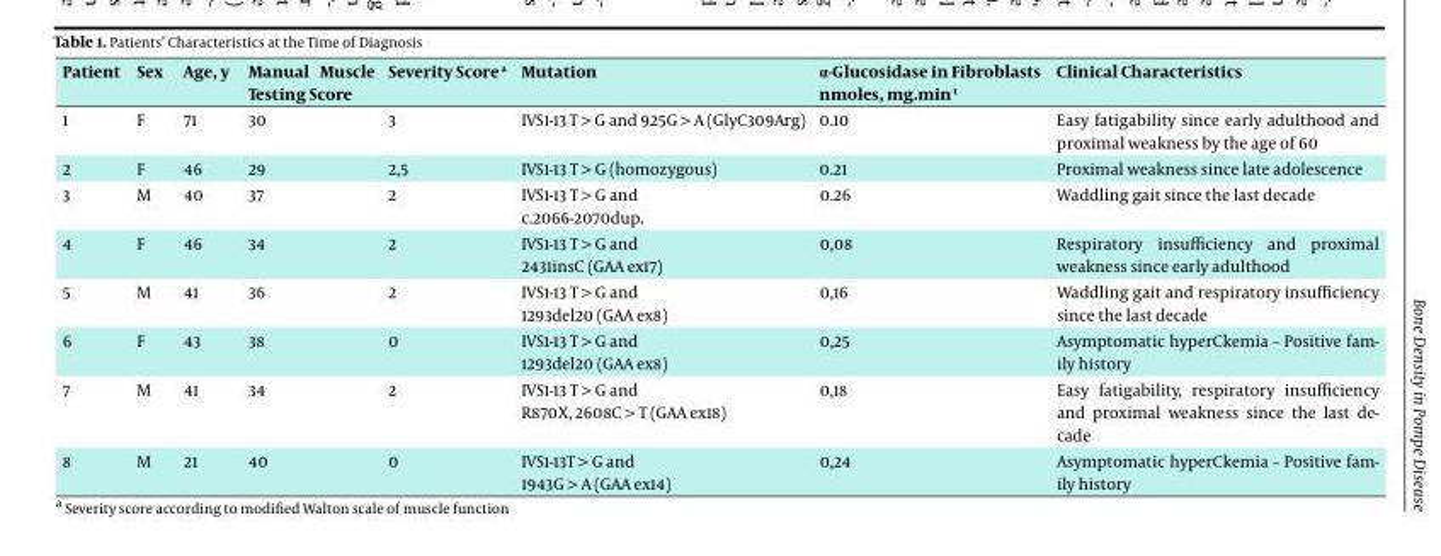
<table><thead><tr><td>Patient</td><td>Sex</td><td>Age, y</td><td>Manual Muscle Testing Score</td><td>Severity Score a</td><td>Mutation</td><td>α-Glucosidase in Fibroblasts nmoles, mg.min<sup>-1</sup></td><td>Clinical Characteristics</td></tr></thead><tbody><tr><td>1</td><td>F</td><td>71</td><td>30</td><td>3</td><td>IVS1-13 T &gt; G and 925G &gt; A (GlyC309Arg)</td><td>0.10</td><td>Easy fatigability since early adulthood and proximal weakness by the age of 60</td></tr><tr><td>2</td><td>F</td><td>46</td><td>29</td><td>2,5</td><td>IVS1-13 T &gt; G (homozygous)</td><td>0.21</td><td>Proximal weakness since late adolescence</td></tr><tr><td>3</td><td>M</td><td>40</td><td>37</td><td>2</td><td>IVS1-13 T &gt; G and c.2066-2070dup.</td><td>0.26</td><td>Waddling gait since the last decade</td></tr><tr><td>4</td><td>F</td><td>46</td><td>34</td><td>2</td><td>IVS1-13 T &gt; G and 2431insC (GAA ex17)</td><td>0,08</td><td>Respiratory insufficiency and proximal weakness since early adulthood</td></tr><tr><td>5</td><td>M</td><td>41</td><td>36</td><td>2</td><td>IVS1-13 T &gt; G and 1293del20 (GAA ex8)</td><td>0,16</td><td>Waddling gait and respiratory insufficiency since the last decade</td></tr><tr><td>6</td><td>F</td><td>43</td><td>38</td><td>0</td><td>IVS1-13 T &gt; G and 1293del20 (GAA ex8)</td><td>0,25</td><td>Asymptomatic hyperCkemia – Positive fam- ily history</td></tr><tr><td>7</td><td>M</td><td>41</td><td>34</td><td>2</td><td>IVS1-13 T &gt; G and R870X, 2608C &gt; T (GAA ex18)</td><td>0,18</td><td>Easy fatigability, respiratory insufficiency and proximal weakness since the last de- cade</td></tr><tr><td>8</td><td>M</td><td>21</td><td>40</td><td>0</td><td>IVS1-13T &gt; G and 1943G &gt; A (GAA ex14)</td><td>0,24</td><td>Asymptomatic hyperCkemia – Positive fam- ily history</td></tr></tbody></table>